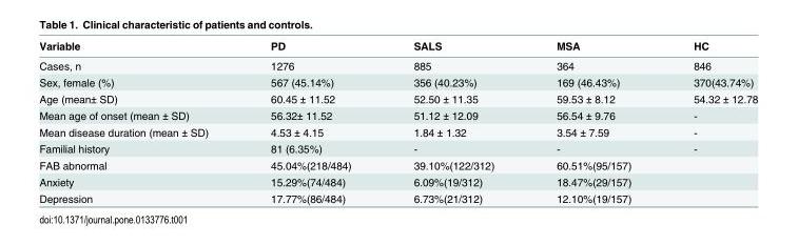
<table><thead><tr><td>Variable</td><td>PD</td><td>SALS</td><td>MSA</td><td>HC</td></tr></thead><tbody><tr><td>Cases, n</td><td>1276</td><td>885</td><td>364</td><td>846</td></tr><tr><td>Sex, female (%)</td><td>567 (45.14%)</td><td>356 (40.23%)</td><td>169 (46.43%)</td><td>370(43.74%)</td></tr><tr><td>Age (mean± SD)</td><td>60.45 ± 11.52</td><td>52.50 ± 11.35</td><td>59.53 ± 8.12</td><td>54.32 ± 12.78</td></tr><tr><td>Mean age of onset (mean ± SD)</td><td>56.32± 11.52</td><td>51.12 ± 12.09</td><td>56.54 ± 9.76</td><td>-</td></tr><tr><td>Mean disease duration (mean ± SD)</td><td>4.53 ± 4.15</td><td>1.84 ± 1.32</td><td>3.54 ± 7.59</td><td>-</td></tr><tr><td>Familial history</td><td>81 (6.35%)</td><td>-</td><td>-</td><td>-</td></tr><tr><td>FAB abnormal</td><td>45.04%(218/484)</td><td>39.10%(122/312)</td><td>60.51%(95/157)</td><td></td></tr><tr><td>Anxiety</td><td>15.29%(74/484)</td><td>6.09%(19/312)</td><td>18.47%(29/157)</td><td></td></tr><tr><td>Depression</td><td>17.77%(86/484)</td><td>6.73%(21/312)</td><td>12.10%(19/157)</td><td></td></tr></tbody></table>